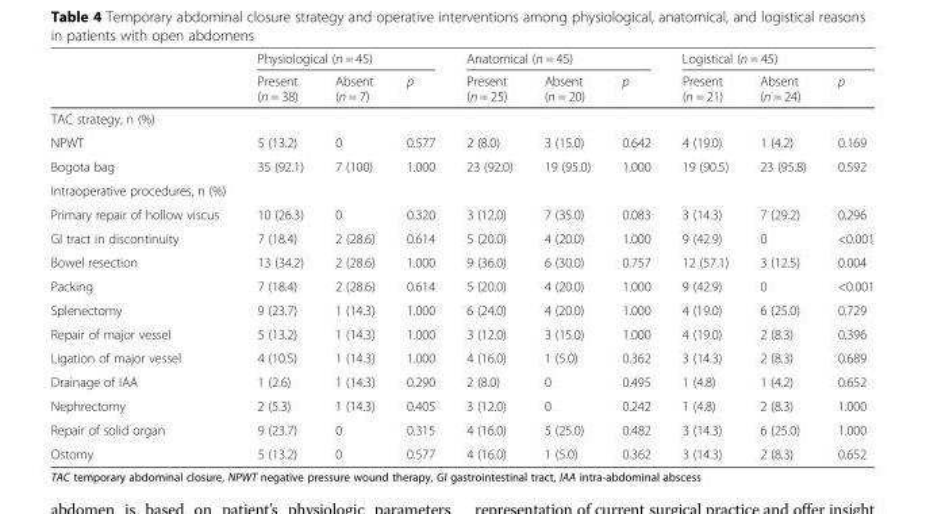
<table><thead><tr><td rowspan="2"></td><td colspan="3">Physiological (n = 45)</td><td colspan="3">Anatomical (n = 45)</td><td colspan="3">Logistical (n = 45)</td></tr><tr><td>Present (n = 38)</td><td>Absent (n = 7)</td><td>p</td><td>Present (n = 25)</td><td>Absent (n = 20)</td><td>p</td><td>Present (n = 21)</td><td>Absent (n = 24)</td><td>p</td></tr></thead><tbody><tr><td colspan="10">TAC strategy, n (%)</td></tr><tr><td>NPWT</td><td>5 (13.2)</td><td>0</td><td>0.577</td><td>2 (8.0)</td><td>3 (15.0)</td><td>0.642</td><td>4 (19.0)</td><td>1 (4.2)</td><td>0.169</td></tr><tr><td>Bogota bag</td><td>35 (92.1)</td><td>7 (100)</td><td>1.000</td><td>23 (92.0)</td><td>19 (95.0)</td><td>1.000</td><td>19 (90.5)</td><td>23 (95.8)</td><td>0.592</td></tr><tr><td colspan="10">Intraoperative procedures, n (%)</td></tr><tr><td>Primary repair of hollow viscus</td><td>10 (26.3)</td><td>0</td><td>0.320</td><td>3 (12.0)</td><td>7 (35.0)</td><td>0.083</td><td>3 (14.3)</td><td>7 (29.2)</td><td>0.296</td></tr><tr><td>GI tract in discontinuity</td><td>7 (18.4)</td><td>2 (28.6)</td><td>0.614</td><td>5 (20.0)</td><td>4 (20.0)</td><td>1.000</td><td>9 (42.9)</td><td>0</td><td>&lt;0.001</td></tr><tr><td>Bowel resection</td><td>13 (34.2)</td><td>2 (28.6)</td><td>1.000</td><td>9 (36.0)</td><td>6 (30.0)</td><td>0.757</td><td>12 (57.1)</td><td>3 (12.5)</td><td>0.004</td></tr><tr><td>Packing</td><td>7 (18.4)</td><td>2 (28.6)</td><td>0.614</td><td>5 (20.0)</td><td>4 (20.0)</td><td>1.000</td><td>9 (42.9)</td><td>0</td><td>&lt;0.001</td></tr><tr><td>Splenectomy</td><td>9 (23.7)</td><td>1 (14.3)</td><td>1.000</td><td>6 (24.0)</td><td>4 (20.0)</td><td>1.000</td><td>4 (19.0)</td><td>6 (25.0)</td><td>0.729</td></tr><tr><td>Repair of major vessel</td><td>5 (13.2)</td><td>1 (14.3)</td><td>1.000</td><td>3 (12.0)</td><td>3 (15.0)</td><td>1.000</td><td>4 (19.0)</td><td>2 (8.3)</td><td>0.396</td></tr><tr><td>Ligation of major vessel</td><td>4 (10.5)</td><td>1 (14.3)</td><td>1.000</td><td>4 (16.0)</td><td>1 (5.0)</td><td>0.362</td><td>3 (14.3)</td><td>2 (8.3)</td><td>0.689</td></tr><tr><td>Drainage of IAA</td><td>1 (2.6)</td><td>1 (14.3)</td><td>0.290</td><td>2 (8.0)</td><td>0</td><td>0.495</td><td>1 (4.8)</td><td>1 (4.2)</td><td>0.652</td></tr><tr><td>Nephrectomy</td><td>2 (5.3)</td><td>1 (14.3)</td><td>0.405</td><td>3 (12.0)</td><td>0</td><td>0.242</td><td>1 (4.8)</td><td>2 (8.3)</td><td>1.000</td></tr><tr><td>Repair of solid organ</td><td>9 (23.7)</td><td>0</td><td>0.315</td><td>4 (16.0)</td><td>5 (25.0)</td><td>0.482</td><td>3 (14.3)</td><td>6 (25.0)</td><td>1.000</td></tr><tr><td>Ostomy</td><td>5 (13.2)</td><td>0</td><td>0.577</td><td>4 (16.0)</td><td>1 (5.0)</td><td>0.362</td><td>3 (14.3)</td><td>2 (8.3)</td><td>0.652</td></tr></tbody></table>